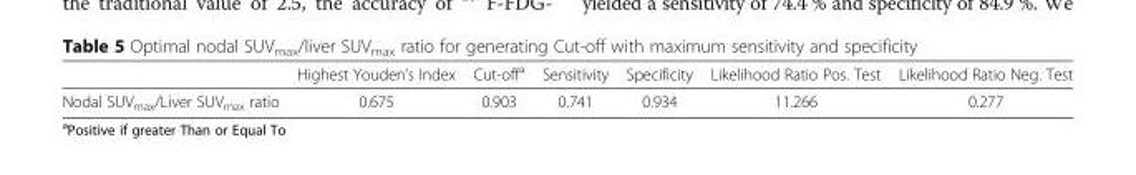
<table><thead><tr><td></td><td>Highest Youden’s Index</td><td>Cut-off<sup>a</sup></td><td>Sensitivity</td><td>Specificity</td><td>Likelihood Ratio Pos. Test</td><td>Likelihood Ratio Neg. Test</td></tr></thead><tbody><tr><td>Nodal SUV<sub>max</sub>/Liver SUV<sub>max</sub> ratio</td><td>0.675</td><td>0.903</td><td>0.741</td><td>0.934</td><td>11.266</td><td>0.277</td></tr></tbody></table>